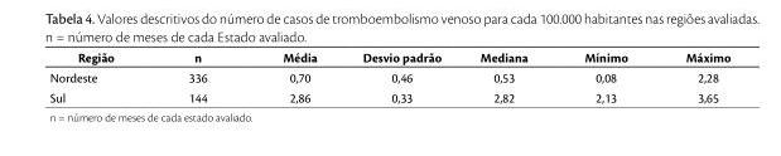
<table><thead><tr><td>Região</td><td>n</td><td>Média</td><td>Desvio padrão</td><td>Mediana</td><td>Mínimo</td><td>Máximo</td></tr></thead><tbody><tr><td>Nordeste</td><td>336</td><td>0,70</td><td>0,46</td><td>0,53</td><td>0,08</td><td>2,28</td></tr><tr><td>Sul</td><td>144</td><td>2,86</td><td>0,33</td><td>2,82</td><td>2,13</td><td>3,65</td></tr></tbody></table>